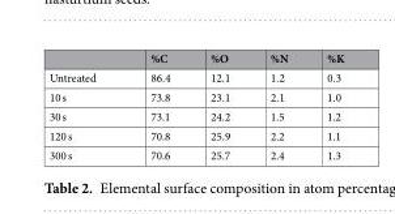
<table><thead><tr><td></td><td>%C</td><td>%O</td><td>%N</td><td>%K</td></tr></thead><tbody><tr><td>Untreated</td><td>86.4</td><td>12.1</td><td>1.2</td><td>0.3</td></tr><tr><td>10 s</td><td>73.8</td><td>23.1</td><td>2.1</td><td>1.0</td></tr><tr><td>30 s</td><td>73.1</td><td>24.2</td><td>1.5</td><td>1.2</td></tr><tr><td>120 s</td><td>70.8</td><td>25.9</td><td>2.2</td><td>1.1</td></tr><tr><td>300 s</td><td>70.6</td><td>25.7</td><td>2.4</td><td>1.3</td></tr></tbody></table>